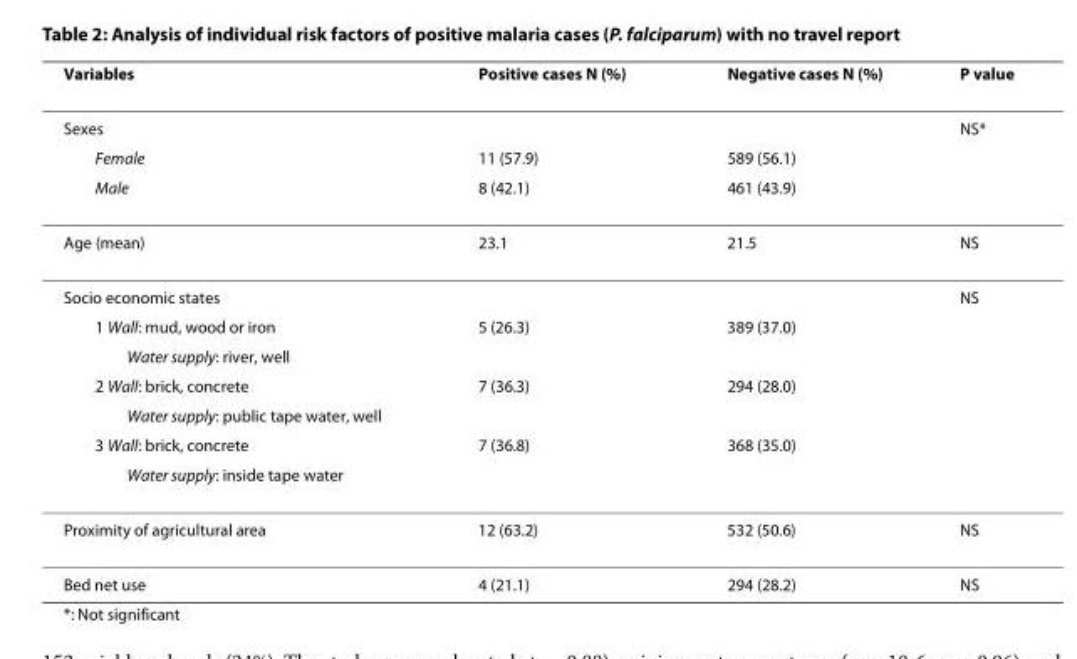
<table><thead><tr><td>Variables</td><td>Positive cases N (%)</td><td>Negative cases N (%)</td><td>P value</td></tr></thead><tbody><tr><td>Sexes</td><td></td><td></td><td>NS*</td></tr><tr><td>Female</td><td>11 (57.9)</td><td>589 (56.1)</td><td></td></tr><tr><td>Male</td><td>8 (42.1)</td><td>461 (43.9)</td><td></td></tr><tr><td>Age (mean)</td><td>23.1</td><td>21.5</td><td>NS</td></tr><tr><td>Socio economic states</td><td></td><td></td><td>NS</td></tr><tr><td>1 Wall: mud, wood or iron</td><td>5 (26.3)</td><td>389 (37.0)</td><td></td></tr><tr><td colspan="4">Water supply: river, well</td></tr><tr><td>2 Wall: brick, concrete</td><td>7 (36.3)</td><td>294 (28.0)</td><td></td></tr><tr><td colspan="4">Water supply: public tape water, well</td></tr><tr><td>3 Wall: brick, concrete</td><td>7 (36.8)</td><td>368 (35.0)</td><td></td></tr><tr><td colspan="4">Water supply: inside tape water</td></tr><tr><td>Proximity of agricultural area</td><td>12 (63.2)</td><td>532 (50.6)</td><td>NS</td></tr><tr><td>Bed net use</td><td>4 (21.1)</td><td>294 (28.2)</td><td>NS</td></tr></tbody></table>